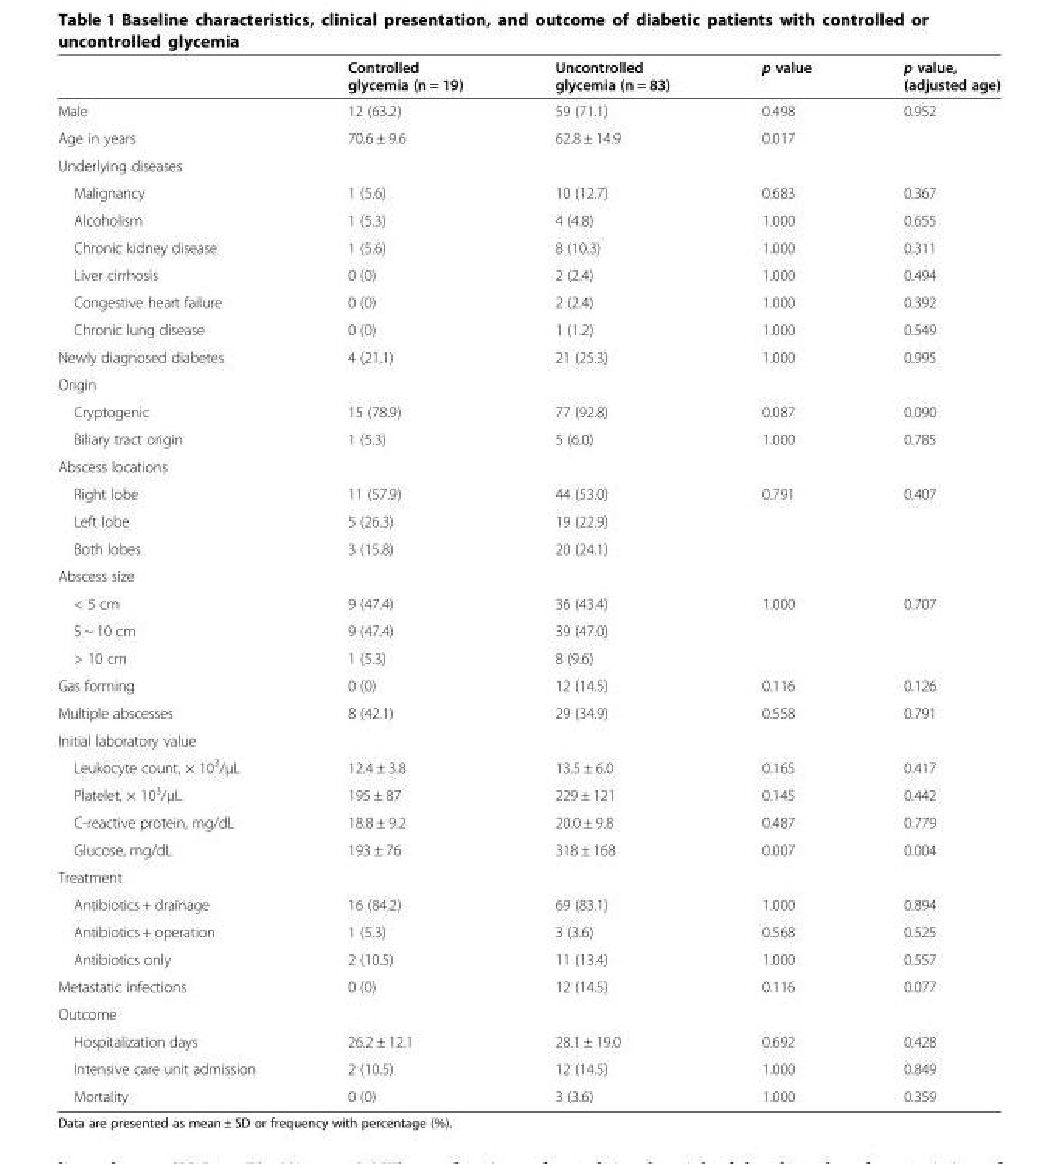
<table><thead><tr><td></td><td>Controlled glycemia (n = 19)</td><td>Uncontrolled glycemia (n = 83)</td><td>p value</td><td>p value, (adjusted age)</td></tr></thead><tbody><tr><td>Male</td><td>12 (63.2)</td><td>59 (71.1)</td><td>0.498</td><td>0.952</td></tr><tr><td>Age in years</td><td>70.6 ± 9.6</td><td>62.8 ± 14.9</td><td>0.017</td><td></td></tr><tr><td colspan="5">Underlying diseases</td></tr><tr><td>Malignancy</td><td>1 (5.6)</td><td>10 (12.7)</td><td>0.683</td><td>0.367</td></tr><tr><td>Alcoholism</td><td>1 (5.3)</td><td>4 (4.8)</td><td>1.000</td><td>0.655</td></tr><tr><td>Chronic kidney disease</td><td>1 (5.6)</td><td>8 (10.3)</td><td>1.000</td><td>0.311</td></tr><tr><td>Liver cirrhosis</td><td>0 (0)</td><td>2 (2.4)</td><td>1.000</td><td>0.494</td></tr><tr><td>Congestive heart failure</td><td>0 (0)</td><td>2 (2.4)</td><td>1.000</td><td>0.392</td></tr><tr><td>Chronic lung disease</td><td>0 (0)</td><td>1 (1.2)</td><td>1.000</td><td>0.549</td></tr><tr><td>Newly diagnosed diabetes</td><td>4 (21.1)</td><td>21 (25.3)</td><td>1.000</td><td>0.995</td></tr><tr><td colspan="5">Origin</td></tr><tr><td>Cryptogenic</td><td>15 (78.9)</td><td>77 (92.8)</td><td>0.087</td><td>0.090</td></tr><tr><td>Biliary tract origin</td><td>1 (5.3)</td><td>5 (6.0)</td><td>1.000</td><td>0.785</td></tr><tr><td colspan="5">Abscess locations</td></tr><tr><td>Right lobe</td><td>11 (57.9)</td><td>44 (53.0)</td><td>0.791</td><td>0.407</td></tr><tr><td>Left lobe</td><td>5 (26.3)</td><td>19 (22.9)</td><td></td><td></td></tr><tr><td>Both lobes</td><td>3 (15.8)</td><td>20 (24.1)</td><td></td><td></td></tr><tr><td colspan="5">Abscess size</td></tr><tr><td>&lt; 5 cm</td><td>9 (47.4)</td><td>36 (43.4)</td><td>1.000</td><td>0.707</td></tr><tr><td>5 ~ 10 cm</td><td>9 (47.4)</td><td>39 (47.0)</td><td></td><td></td></tr><tr><td>&gt; 10 cm</td><td>1 (5.3)</td><td>8 (9.6)</td><td></td><td></td></tr><tr><td>Gas forming</td><td>0 (0)</td><td>12 (14.5)</td><td>0.116</td><td>0.126</td></tr><tr><td>Multiple abscesses</td><td>8 (42.1)</td><td>29 (34.9)</td><td>0.558</td><td>0.791</td></tr><tr><td colspan="5">Initial laboratory value</td></tr><tr><td>Leukocyte count, × 10<sup>3</sup>/μL</td><td>12.4 ± 3.8</td><td>13.5 ± 6.0</td><td>0.165</td><td>0.417</td></tr><tr><td>Platelet, × 10<sup>3</sup>/μL</td><td>195 ± 87</td><td>229 ± 121</td><td>0.145</td><td>0.442</td></tr><tr><td>C-reactive protein, mg/dL</td><td>18.8 ± 9.2</td><td>20.0 ± 9.8</td><td>0.487</td><td>0.779</td></tr><tr><td>Glucose, mg/dL</td><td>193 ± 76</td><td>318 ± 168</td><td>0.007</td><td>0.004</td></tr><tr><td colspan="5">Treatment</td></tr><tr><td>Antibiotics + drainage</td><td>16 (84.2)</td><td>69 (83.1)</td><td>1.000</td><td>0.894</td></tr><tr><td>Antibiotics + operation</td><td>1 (5.3)</td><td>3 (3.6)</td><td>0.568</td><td>0.525</td></tr><tr><td>Antibiotics only</td><td>2 (10.5)</td><td>11 (13.4)</td><td>1.000</td><td>0.557</td></tr><tr><td>Metastatic infections</td><td>0 (0)</td><td>12 (14.5)</td><td>0.116</td><td>0.077</td></tr><tr><td colspan="5">Outcome</td></tr><tr><td>Hospitalization days</td><td>26.2 ± 12.1</td><td>28.1 ± 19.0</td><td>0.692</td><td>0.428</td></tr><tr><td>Intensive care unit admission</td><td>2 (10.5)</td><td>12 (14.5)</td><td>1.000</td><td>0.849</td></tr><tr><td>Mortality</td><td>0 (0)</td><td>3 (3.6)</td><td>1.000</td><td>0.359</td></tr></tbody></table>